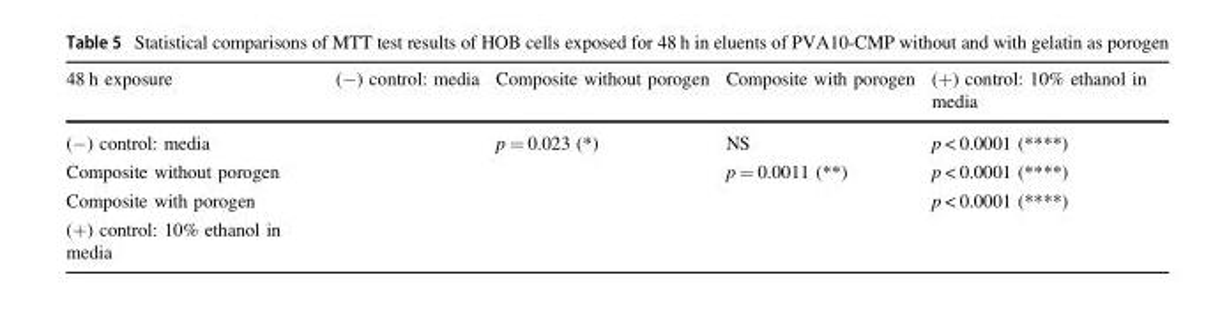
<table><thead><tr><td>48 h exposure</td><td>(−) control: media</td><td>Composite without porogen</td><td>Composite with porogen</td><td>(+) control: 10% ethanol in media</td></tr></thead><tbody><tr><td>(−) control: media</td><td></td><td>p = 0.023 (*)</td><td>NS</td><td>p &lt; 0.0001 (****)</td></tr><tr><td>Composite without porogen</td><td></td><td></td><td>p = 0.0011 (**)</td><td>p &lt; 0.0001 (****)</td></tr><tr><td>Composite with porogen</td><td></td><td></td><td></td><td>p &lt; 0.0001 (****)</td></tr><tr><td>(+) control: 10% ethanol in media</td><td></td><td></td><td></td><td></td></tr></tbody></table>